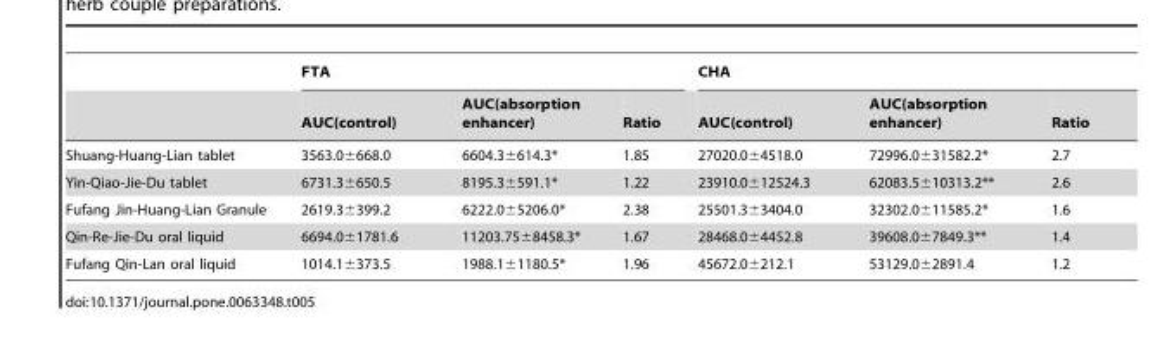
<table><thead><tr><td rowspan="2"></td><td colspan="3">FTA</td><td colspan="3">CHA</td></tr><tr><td>AUC(control)</td><td>AUC(absorption enhancer)</td><td>Ratio</td><td>AUC(control)</td><td>AUC(absorption enhancer)</td><td>Ratio</td></tr></thead><tbody><tr><td>Shuang-Huang-Lian tablet</td><td>3563.0±668.0</td><td>6604.3±614.3*</td><td>1.85</td><td>27020.0±4518.0</td><td>72996.0±31582.2*</td><td>2.7</td></tr><tr><td>Yin-Qiao-Jie-Du tablet</td><td>6731.3±650.5</td><td>8195.3±591.1*</td><td>1.22</td><td>23910.0±12524.3</td><td>62083.5±10313.2**</td><td>2.6</td></tr><tr><td>Fufang Jin-Huang-Lian Granule</td><td>2619.3±399.2</td><td>6222.0±5206.0*</td><td>2.38</td><td>25501.3±3404.0</td><td>32302.0±11585.2*</td><td>1.6</td></tr><tr><td>Qin-Re-Jie-Du oral liquid</td><td>6694.0±1781.6</td><td>11203.75±8458.3*</td><td>1.67</td><td>28468.0±4452.8</td><td>39608.0±7849.3**</td><td>1.4</td></tr><tr><td>Fufang Qin-Lan oral liquid</td><td>1014.1±373.5</td><td>1988.1±1180.5*</td><td>1.96</td><td>45672.0±212.1</td><td>53129.0±2891.4</td><td>1.2</td></tr></tbody></table>